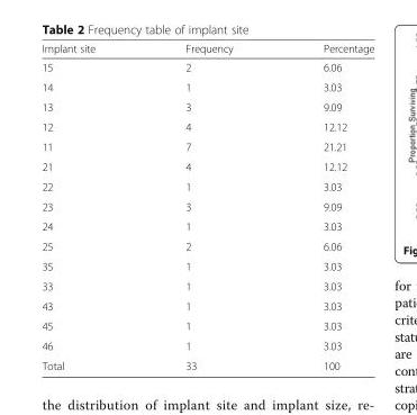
<table><thead><tr><td>Implant site</td><td>Frequency</td><td>Percentage</td></tr></thead><tbody><tr><td>15</td><td>2</td><td>6.06</td></tr><tr><td>14</td><td>1</td><td>3.03</td></tr><tr><td>13</td><td>3</td><td>9.09</td></tr><tr><td>12</td><td>4</td><td>12.12</td></tr><tr><td>11</td><td>7</td><td>21.21</td></tr><tr><td>21</td><td>4</td><td>12.12</td></tr><tr><td>22</td><td>1</td><td>3.03</td></tr><tr><td>23</td><td>3</td><td>9.09</td></tr><tr><td>24</td><td>1</td><td>3.03</td></tr><tr><td>25</td><td>2</td><td>6.06</td></tr><tr><td>35</td><td>1</td><td>3.03</td></tr><tr><td>33</td><td>1</td><td>3.03</td></tr><tr><td>43</td><td>1</td><td>3.03</td></tr><tr><td>45</td><td>1</td><td>3.03</td></tr><tr><td>46</td><td>1</td><td>3.03</td></tr><tr><td>Total</td><td>33</td><td>100</td></tr></tbody></table>